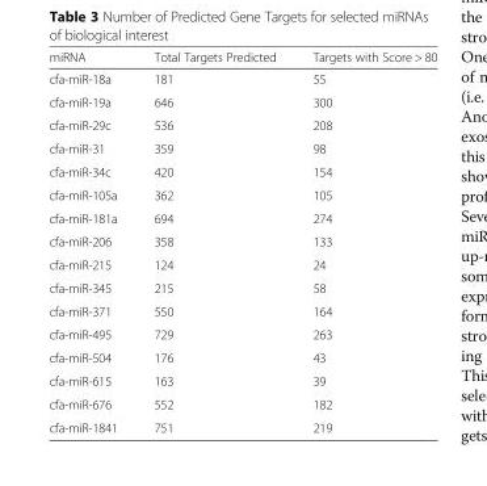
<table><thead><tr><td>miRNA</td><td>Total Targets Predicted</td><td>Targets with Score &gt; 80</td></tr></thead><tbody><tr><td>cfa-miR-18a</td><td>181</td><td>55</td></tr><tr><td>cfa-miR-19a</td><td>646</td><td>300</td></tr><tr><td>cfa-miR-29c</td><td>536</td><td>208</td></tr><tr><td>cfa-miR-31</td><td>359</td><td>98</td></tr><tr><td>cfa-miR-34c</td><td>420</td><td>154</td></tr><tr><td>cfa-miR-105a</td><td>362</td><td>105</td></tr><tr><td>cfa-miR-181a</td><td>694</td><td>274</td></tr><tr><td>cfa-miR-206</td><td>358</td><td>133</td></tr><tr><td>cfa-miR-215</td><td>124</td><td>24</td></tr><tr><td>cfa-miR-345</td><td>215</td><td>58</td></tr><tr><td>cfa-miR-371</td><td>550</td><td>164</td></tr><tr><td>cfa-miR-495</td><td>729</td><td>263</td></tr><tr><td>cfa-miR-504</td><td>176</td><td>43</td></tr><tr><td>cfa-miR-615</td><td>163</td><td>39</td></tr><tr><td>cfa-miR-676</td><td>552</td><td>182</td></tr><tr><td>cfa-miR-1841</td><td>751</td><td>219</td></tr></tbody></table>